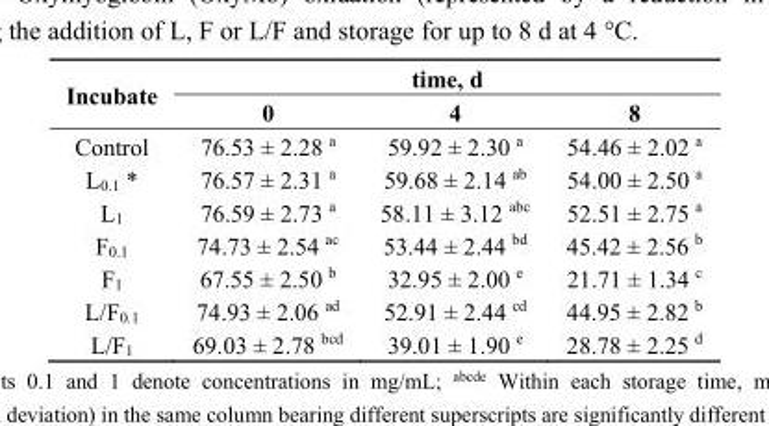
<table><thead><tr><td rowspan="2">Incubate</td><td colspan="3">time, d</td></tr><tr><td>0</td><td>4</td><td>8</td></tr></thead><tbody><tr><td>Control</td><td>76.53 ± 2.28 <sup>a</sup></td><td>59.92 ± 2.30 <sup>a</sup></td><td>54.46 ± 2.02 <sup>a</sup></td></tr><tr><td>L<sub>0.1</sub> *</td><td>76.57 ± 2.31 <sup>a</sup></td><td>59.68 ± 2.14 <sup>ab</sup></td><td>54.00 ± 2.50 <sup>a</sup></td></tr><tr><td>L<sub>1</sub></td><td>76.59 ± 2.73 <sup>a</sup></td><td>58.11 ± 3.12 <sup>abc</sup></td><td>52.51 ± 2.75 <sup>a</sup></td></tr><tr><td>F<sub>0.1</sub></td><td>74.73 ± 2.54 <sup>ac</sup></td><td>53.44 ± 2.44 <sup>bd</sup></td><td>45.42 ± 2.56 <sup>b</sup></td></tr><tr><td>F<sub>1</sub></td><td>67.55 ± 2.50 <sup>b</sup></td><td>32.95 ± 2.00 <sup>e</sup></td><td>21.71 ± 1.34 <sup>c</sup></td></tr><tr><td>L/F<sub>0.1</sub></td><td>74.93 ± 2.06 <sup>ad</sup></td><td>52.91 ± 2.44 <sup>cd</sup></td><td>44.95 ± 2.82 <sup>b</sup></td></tr><tr><td>L/F<sub>1</sub></td><td>69.03 ± 2.78 <sup>bcd</sup></td><td>39.01 ± 1.90 <sup>e</sup></td><td>28.78 ± 2.25 <sup>d</sup></td></tr></tbody></table>